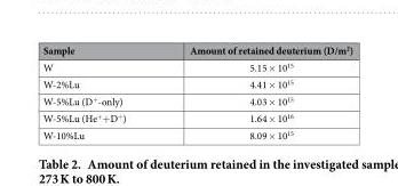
<table><thead><tr><td>Sample</td><td>Amount of retained deuterium (D/m<sup>2</sup>)</td></tr></thead><tbody><tr><td>W</td><td>5.15 × 10<sup>15</sup></td></tr><tr><td>W-2%Lu</td><td>4.41 × 10<sup>15</sup></td></tr><tr><td>W-5%Lu (D<sup>+</sup>-only)</td><td>4.03 × 10<sup>15</sup></td></tr><tr><td>W-5%Lu (He<sup>+</sup>+ D<sup>+</sup>)</td><td>1.64 × 10<sup>16</sup></td></tr><tr><td>W-10%Lu</td><td>8.09 × 10<sup>15</sup></td></tr></tbody></table>